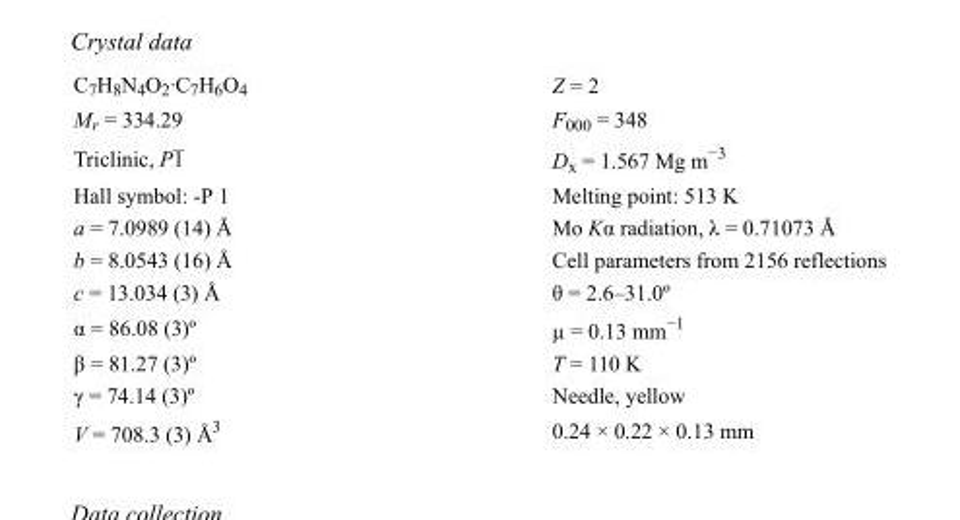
<table><tbody><tr><td>C<sub>7</sub>H<sub>8</sub>N<sub>4</sub>O<sub>2</sub>·C<sub>7</sub>H<sub>6</sub>O<sub>4</sub></td><td>Z = 2</td></tr><tr><td>M<sub>r</sub> = 334.29</td><td>F000 = 348</td></tr><tr><td>Triclinic, P1</td><td>D<sub>x</sub> = 1.567 Mg m<sup>−3</sup></td></tr><tr><td>Hall symbol: -P 1</td><td>Melting point: 513 K</td></tr><tr><td>a = 7.0989 (14) Å</td><td>Mo Kα radiation, λ = 0.71073 Å</td></tr><tr><td>b = 8.0543 (16) Å</td><td>Cell parameters from 2156 reflections</td></tr><tr><td>c = 13.034 (3) Å</td><td>θ = 2.6–31.0º</td></tr><tr><td>α = 86.08 (3)º</td><td>µ = 0.13 mm<sup>−1</sup></td></tr><tr><td>β = 81.27 (3)º</td><td>T = 110 K</td></tr><tr><td>γ = 74.14 (3)º</td><td>Needle, yellow</td></tr><tr><td>V = 708.3 (3) Å<sup>3</sup></td><td>0.24 × 0.22 × 0.13 mm</td></tr></tbody></table>